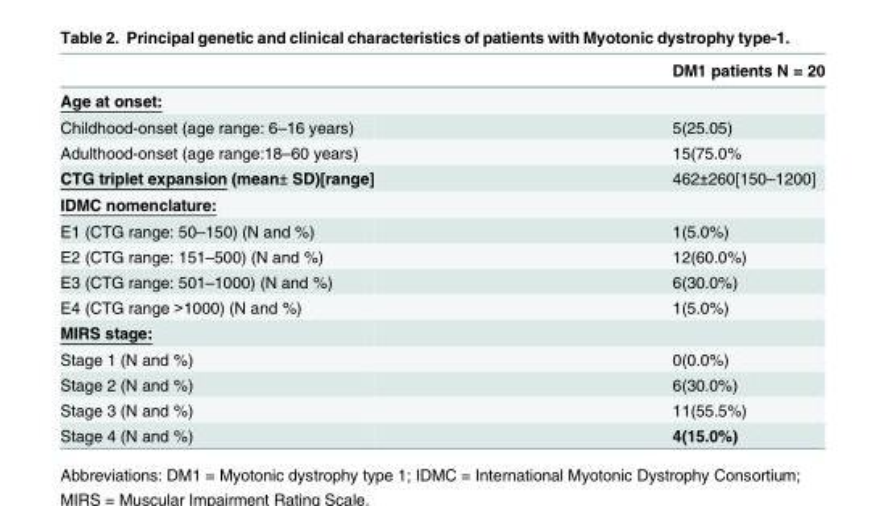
<table><thead><tr><td></td><td>DM1 patients N = 20</td></tr></thead><tbody><tr><td colspan="2">Age at onset:</td></tr><tr><td>Childhood-onset (age range: 6–16 years)</td><td>5(25.05)</td></tr><tr><td>Adulthood-onset (age range:18–60 years)</td><td>15(75.0%</td></tr><tr><td>CTG triplet expansion (mean± SD)[range]</td><td>462±260[150–1200]</td></tr><tr><td colspan="2">IDMC nomenclature:</td></tr><tr><td>E1 (CTG range: 50–150) (N and %)</td><td>1(5.0%)</td></tr><tr><td>E2 (CTG range: 151–500) (N and %)</td><td>12(60.0%)</td></tr><tr><td>E3 (CTG range: 501–1000) (N and %)</td><td>6(30.0%)</td></tr><tr><td>E4 (CTG range &gt;1000) (N and %)</td><td>1(5.0%)</td></tr><tr><td colspan="2">MIRS stage:</td></tr><tr><td>Stage 1 (N and %)</td><td>0(0.0%)</td></tr><tr><td>Stage 2 (N and %)</td><td>6(30.0%)</td></tr><tr><td>Stage 3 (N and %)</td><td>11(55.5%)</td></tr><tr><td>Stage 4 (N and %)</td><td>4(15.0%)</td></tr></tbody></table>